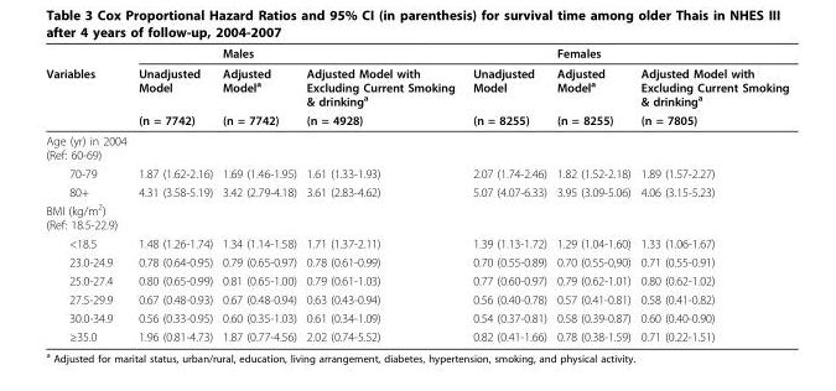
<table><thead><tr><td rowspan="3">Variables</td><td rowspan="3">Unadjusted Model (n = 7742)</td><td rowspan="3">Males Adjusted Model<sup>a</sup> (n = 7742)</td><td rowspan="3">Adjusted Model with Excluding Current Smoking &amp; drinking<sup>a</sup> (n = 4928)</td><td rowspan="3">Unadjusted Model (n = 8255)</td><td rowspan="3">Females Adjusted Model<sup>a</sup> (n = 8255)</td><td rowspan="3">Adjusted Model with Excluding Current Smoking &amp; drinking<sup>a</sup> (n = 7805)</td></tr><tr></tr><tr></tr></thead><tbody><tr><td colspan="7">Age (yr) in 2004 (Ref: 60-69)</td></tr><tr><td>70-79</td><td>1.87 (1.62-2.16)</td><td>1.69 (1.46-1.95)</td><td>1.61 (1.33-1.93)</td><td>2.07 (1.74-2.46)</td><td>1.82 (1.52-2.18)</td><td>1.89 (1.57-2.27)</td></tr><tr><td>80+</td><td>4.31 (3.58-5.19)</td><td>3.42 (2.79-4.18)</td><td>3.61 (2.83-4.62)</td><td>5.07 (4.07-6.33)</td><td>3.95 (3.09-5.06)</td><td>4.06 (3.15-5.23)</td></tr><tr><td colspan="7">BMI (kg/m<sup>2</sup>) (Ref: 18.5-22.9)</td></tr><tr><td>&lt;18.5</td><td>1.48 (1.26-1.74)</td><td>1.34 (1.14-1.58)</td><td>1.71 (1.37-2.11)</td><td>1.39 (1.13-1.72)</td><td>1.29 (1.04-1.60)</td><td>1.33 (1.06-1.67)</td></tr><tr><td>23.0-24.9</td><td>0.78 (0.64-0.95)</td><td>0.79 (0.65-0.97)</td><td>0.78 (0.61-0.99)</td><td>0.70 (0.55-0.89)</td><td>0.70 (0.55-0,90)</td><td>0.71 (0.55-0.91)</td></tr><tr><td>25.0-27.4</td><td>0.80 (0.65-0.99)</td><td>0.81 (0.65-1.00)</td><td>0.79 (0.61-1.03)</td><td>0.77 (0.60-0.97)</td><td>0.79 (0.62-1.01)</td><td>0.80 (0.62-1.02)</td></tr><tr><td>27.5-29.9</td><td>0.67 (0.48-0.93)</td><td>0.67 (0.48-0.94)</td><td>0.63 (0.43-0.94)</td><td>0.56 (0.40-0.78)</td><td>0.57 (0.41-0.81)</td><td>0.58 (0.41-0.82)</td></tr><tr><td>30.0-34.9</td><td>0.56 (0.33-0.95)</td><td>0.60 (0.35-1.03)</td><td>0.61 (0.34-1.09)</td><td>0.54 (0.37-0.81)</td><td>0.58 (0.39-0.87)</td><td>0.60 (0.40-0.90)</td></tr><tr><td>≥35.0</td><td>1.96 (0.81-4.73)</td><td>1.87 (0.77-4.56)</td><td>2.02 (0.74-5.52)</td><td>0.82 (0.41-1.66)</td><td>0.78 (0.38-1.59)</td><td>0.71 (0.22-1.51)</td></tr></tbody></table>